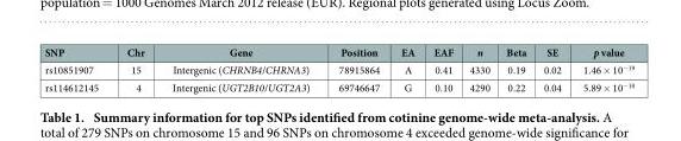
<table><thead><tr><td>SNP</td><td>Chr</td><td>Gene</td><td>Position</td><td>EA</td><td>EAF</td><td>n</td><td>Beta</td><td>SE</td><td>p value</td></tr></thead><tbody><tr><td>rs10851907</td><td>15</td><td>Intergenic (CHRNB4/CHRNA3)</td><td>78915864</td><td>A</td><td>0.41</td><td>4330</td><td>0.19</td><td>0.02</td><td>1.46 × 10<sup>−19</sup></td></tr><tr><td>rs114612145</td><td>4</td><td>Intergenic (UGT2B10/UGT2A3)</td><td>69746647</td><td>G</td><td>0.10</td><td>4290</td><td>0.22</td><td>0.04</td><td>5.89 × 10<sup>−10</sup></td></tr></tbody></table>